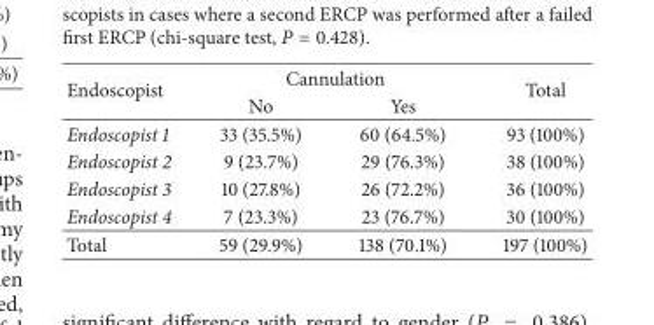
<table><thead><tr><td rowspan="2">Endoscopist</td><td colspan="2">Cannulation</td><td rowspan="2">Total</td></tr><tr><td>No</td><td>Yes</td></tr></thead><tbody><tr><td>Endoscopist 1</td><td>33 (35.5%)</td><td>60 (64.5%)</td><td>93 (100%)</td></tr><tr><td>Endoscopist 2</td><td>9 (23.7%)</td><td>29 (76.3%)</td><td>38 (100%)</td></tr><tr><td>Endoscopist 3</td><td>10 (27.8%)</td><td>26 (72.2%)</td><td>36 (100%)</td></tr><tr><td>Endoscopist 4</td><td>7 (23.3%)</td><td>23 (76.7%)</td><td>30 (100%)</td></tr><tr><td>Total</td><td>59 (29.9%)</td><td>138 (70.1%)</td><td>197 (100%)</td></tr></tbody></table>